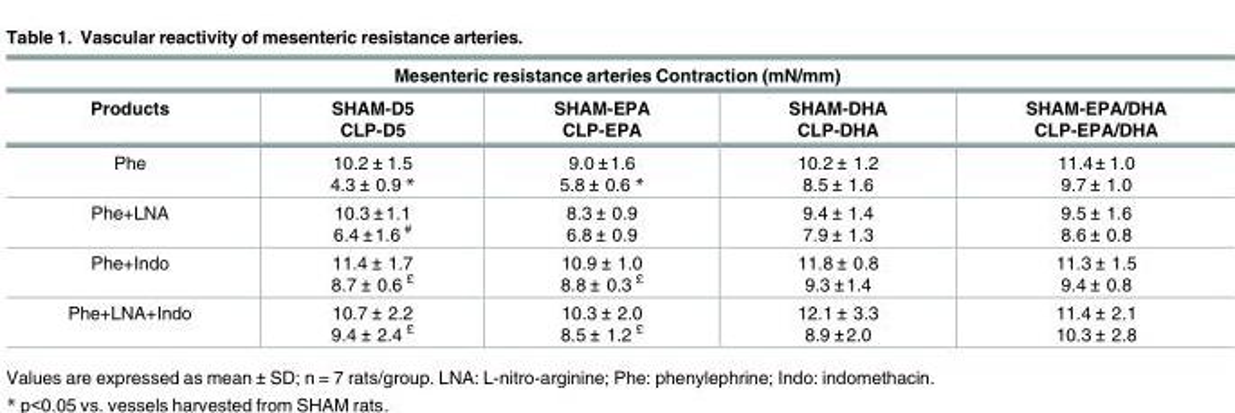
<table><thead><tr><td colspan="5">Mesenteric resistance arteries Contraction (mN/mm)</td></tr><tr><td>Products</td><td>SHAM-D5 CLP-D5</td><td>SHAM-EPA CLP-EPA</td><td>SHAM-DHA CLP-DHA</td><td>SHAM-EPA/DHA CLP-EPA/DHA</td></tr></thead><tbody><tr><td>Phe</td><td>10.2 ± 1.5 4.3 ± 0.9 *</td><td>9.0 ±1.6 5.8 ± 0.6 *</td><td>10.2 ± 1.2 8.5 ± 1.6</td><td>11.4± 1.0 9.7 ± 1.0</td></tr><tr><td>Phe+LNA</td><td>10.3 ±1.1 6.4 ±1.6 <sup>#</sup></td><td>8.3 ± 0.9 6.8 ± 0.9</td><td>9.4 ± 1.4 7.9 ± 1.3</td><td>9.5 ± 1.6 8.6 ± 0.8</td></tr><tr><td>Phe+Indo</td><td>11.4 ± 1.7 8.7 ± 0.6 <sup>£</sup></td><td>10.9 ± 1.0 8.8 ± 0.3 <sup>£</sup></td><td>11.8 ± 0.8 9.3 ±1.4</td><td>11.3 ± 1.5 9.4 ± 0.8</td></tr><tr><td>Phe+LNA+Indo</td><td>10.7 ± 2.2 9.4 ± 2.4 <sup>£</sup></td><td>10.3 ± 2.0 8.5 ± 1.2 <sup>£</sup></td><td>12.1 ± 3.3 8.9 ±2.0</td><td>11.4 ± 2.1 10.3 ± 2.8</td></tr></tbody></table>